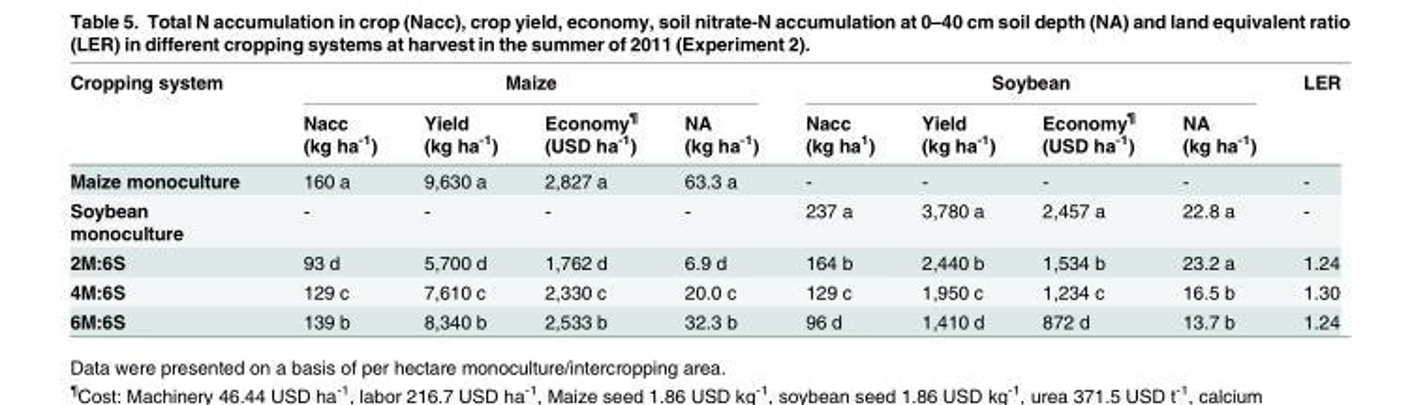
<table><thead><tr><td rowspan="2">Cropping system</td><td colspan="4">Maize</td><td colspan="4">Soybean</td><td rowspan="2">LER</td></tr><tr><td>Nacc (kg ha<sup>-1</sup>)</td><td>Yield (kg ha<sup>-1</sup>)</td><td>Economy<sup>¶</sup> (USD ha<sup>-1</sup>)</td><td>NA (kg ha<sup>-1</sup>)</td><td>Nacc (kg ha1)</td><td>Yield (kg ha<sup>-1</sup>)</td><td>Economy<sup>¶</sup> (USD ha<sup>-1</sup>)</td><td>NA (kg ha<sup>-1</sup>)</td></tr></thead><tbody><tr><td>Maize monoculture</td><td>160 a</td><td>9,630 a</td><td>2,827 a</td><td>63.3 a</td><td>-</td><td>-</td><td>-</td><td>-</td><td>-</td></tr><tr><td>Soybean monoculture</td><td>-</td><td>-</td><td>-</td><td>-</td><td>237 a</td><td>3,780 a</td><td>2,457 a</td><td>22.8 a</td><td>-</td></tr><tr><td>2M:6S</td><td>93 d</td><td>5,700 d</td><td>1,762 d</td><td>6.9 d</td><td>164 b</td><td>2,440 b</td><td>1,534 b</td><td>23.2 a</td><td>1.24</td></tr><tr><td>4M:6S</td><td>129 c</td><td>7,610 c</td><td>2,330 c</td><td>20.0 c</td><td>129 c</td><td>1,950 c</td><td>1,234 c</td><td>16.5 b</td><td>1.30</td></tr><tr><td>6M:6S</td><td>139 b</td><td>8,340 b</td><td>2,533 b</td><td>32.3 b</td><td>96 d</td><td>1,410 d</td><td>872 d</td><td>13.7 b</td><td>1.24</td></tr></tbody></table>